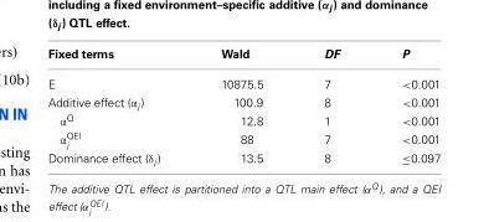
<table><thead><tr><td>Fixed terms</td><td>Wald</td><td>DF</td><td>P</td></tr></thead><tbody><tr><td>E</td><td>10875.5</td><td>7</td><td>&lt;0.001</td></tr><tr><td>Additive effect (α<sub>j</sub>)</td><td>100.9</td><td>8</td><td>&lt;0.001</td></tr><tr><td>α<sup>Q</sup></td><td>12.8</td><td>1</td><td>&lt;0.001</td></tr><tr><td>α<sup>QEI</sup> <sub>j</sub></td><td>88</td><td>7</td><td>&lt;0.001</td></tr><tr><td>Dominance effect (δ<sub>j</sub>)</td><td>13.5</td><td>8</td><td>≤0.097</td></tr></tbody></table>